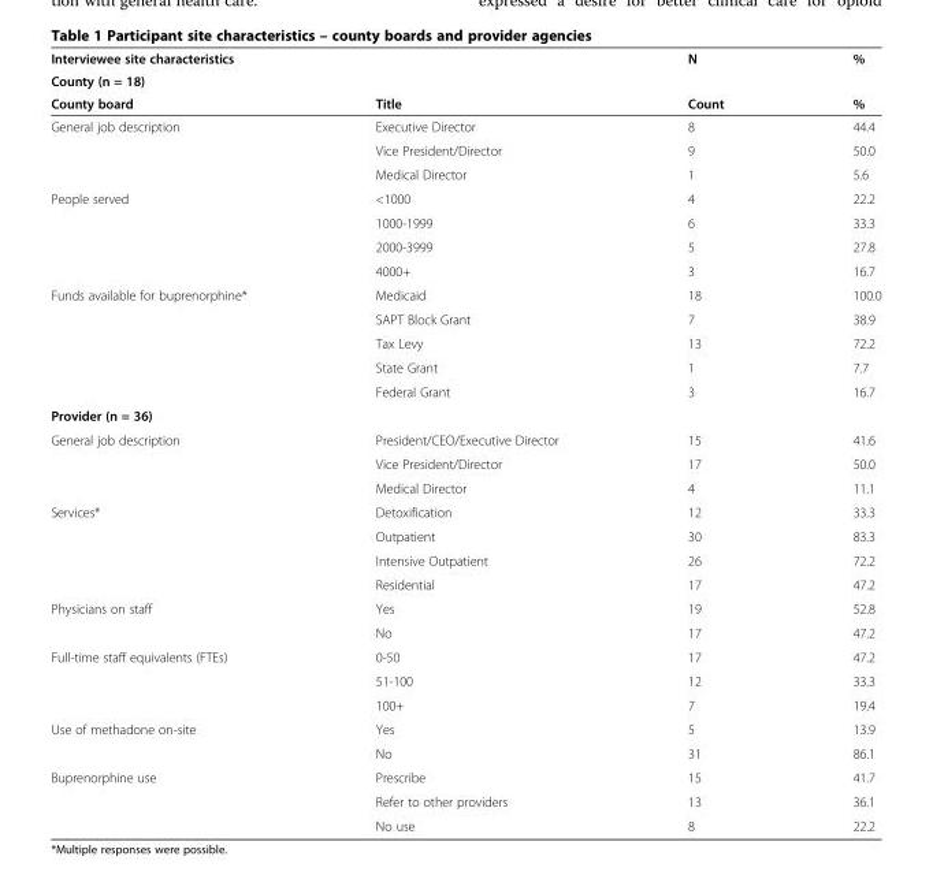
<table><thead><tr><td>Interviewee site characteristics</td><td></td><td>N</td><td>%</td></tr><tr><td colspan="4">County (n = 18)</td></tr><tr><td>County board</td><td>Title</td><td>Count</td><td>%</td></tr></thead><tbody><tr><td rowspan="3">General job description</td><td>Executive Director</td><td>8</td><td>44.4</td></tr><tr><td>Vice President/Director</td><td>9</td><td>50.0</td></tr><tr><td>Medical Director</td><td>1</td><td>5.6</td></tr><tr><td rowspan="4">People served</td><td>&lt;1000</td><td>4</td><td>22.2</td></tr><tr><td>1000-1999</td><td>6</td><td>33.3</td></tr><tr><td>2000-3999</td><td>5</td><td>27.8</td></tr><tr><td>4000+</td><td>3</td><td>16.7</td></tr><tr><td rowspan="5">Funds available for buprenorphine*</td><td>Medicaid</td><td>18</td><td>100.0</td></tr><tr><td>SAPT Block Grant</td><td>7</td><td>38.9</td></tr><tr><td>Tax Levy</td><td>13</td><td>72.2</td></tr><tr><td>State Grant</td><td>1</td><td>7.7</td></tr><tr><td>Federal Grant</td><td>3</td><td>16.7</td></tr><tr><td colspan="4">Provider (n = 36)</td></tr><tr><td rowspan="3">General job description</td><td>President/CEO/Executive Director</td><td>15</td><td>41.6</td></tr><tr><td>Vice President/Director</td><td>17</td><td>50.0</td></tr><tr><td>Medical Director</td><td>4</td><td>11.1</td></tr><tr><td rowspan="4">Services*</td><td>Detoxification</td><td>12</td><td>33.3</td></tr><tr><td>Outpatient</td><td>30</td><td>83.3</td></tr><tr><td>Intensive Outpatient</td><td>26</td><td>72.2</td></tr><tr><td>Residential</td><td>17</td><td>47.2</td></tr><tr><td rowspan="2">Physicians on staff</td><td>Yes</td><td>19</td><td>52.8</td></tr><tr><td>No</td><td>17</td><td>47.2</td></tr><tr><td rowspan="3">Full-time staff equivalents (FTEs)</td><td>0-50</td><td>17</td><td>47.2</td></tr><tr><td>51-100</td><td>12</td><td>33.3</td></tr><tr><td>100+</td><td>7</td><td>19.4</td></tr><tr><td rowspan="2">Use of methadone on-site</td><td>Yes</td><td>5</td><td>13.9</td></tr><tr><td>No</td><td>31</td><td>86.1</td></tr><tr><td rowspan="3">Buprenorphine use</td><td>Prescribe</td><td>15</td><td>41.7</td></tr><tr><td>Refer to other providers</td><td>13</td><td>36.1</td></tr><tr><td>No use</td><td>8</td><td>22.2</td></tr></tbody></table>